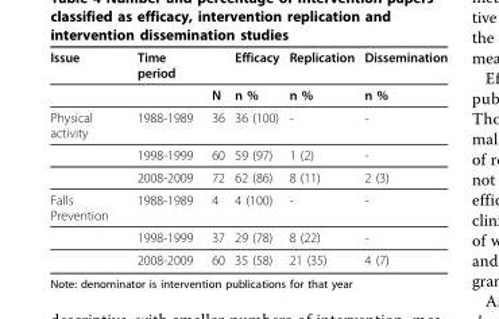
<table><thead><tr><td>Issue</td><td>Time period</td><td></td><td>Efficacy</td><td>Replication</td><td>Dissemination</td></tr></thead><tbody><tr><td></td><td></td><td>N</td><td>n %</td><td>n %</td><td>n %</td></tr><tr><td rowspan="3">Physical activity</td><td>1988-1989</td><td>36</td><td>36 (100)</td><td>-</td><td>-</td></tr><tr><td>1998-1999</td><td>60</td><td>59 (97)</td><td>1 (2)</td><td>-</td></tr><tr><td>2008-2009</td><td>72</td><td>62 (86)</td><td>8 (11)</td><td>2 (3)</td></tr><tr><td rowspan="3">Falls Prevention</td><td>1988-1989</td><td>4</td><td>4 (100)</td><td>-</td><td>-</td></tr><tr><td>1998-1999</td><td>37</td><td>29 (78)</td><td>8 (22)</td><td>-</td></tr><tr><td>2008-2009</td><td>60</td><td>35 (58)</td><td>21 (35)</td><td>4 (7)</td></tr></tbody></table>